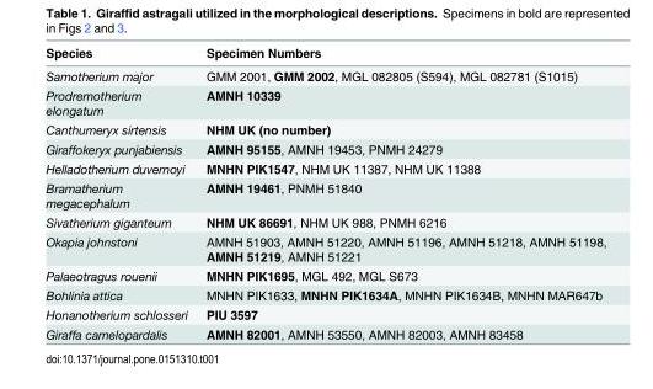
<table><thead><tr><td>Species</td><td>Specimen Numbers</td></tr></thead><tbody><tr><td>Samotherium major</td><td>GMM 2001, GMM 2002, MGL 082805 (S594), MGL 082781 (S1015)</td></tr><tr><td>Prodremotherium elongatum</td><td>AMNH 10339</td></tr><tr><td>Canthumeryx sirtensis</td><td>NHM UK (no number)</td></tr><tr><td>Giraffokeryx punjabiensis</td><td>AMNH 95155, AMNH 19453, PNMH 24279</td></tr><tr><td>Helladotherium duvernoyi</td><td>MNHN PIK1547, NHM UK 11387, NHM UK 11388</td></tr><tr><td>Bramatherium megacephalum</td><td>AMNH 19461, PNMH 51840</td></tr><tr><td>Sivatherium giganteum</td><td>NHM UK 86691, NHM UK 988, PNMH 6216</td></tr><tr><td>Okapia johnstoni</td><td>AMNH 51903, AMNH 51220, AMNH 51196, AMNH 51218, AMNH 51198, AMNH 51219, AMNH 51221</td></tr><tr><td>Palaeotragus rouenii</td><td>MNHN PIK1695, MGL 492, MGL S673</td></tr><tr><td>Bohlinia attica</td><td>MNHN PIK1633, MNHN PIK1634A, MNHN PIK1634B, MNHN MAR647b</td></tr><tr><td>Honanotherium schlosseri</td><td>PIU 3597</td></tr><tr><td>Giraffa camelopardalis</td><td>AMNH 82001, AMNH 53550, AMNH 82003, AMNH 83458</td></tr></tbody></table>